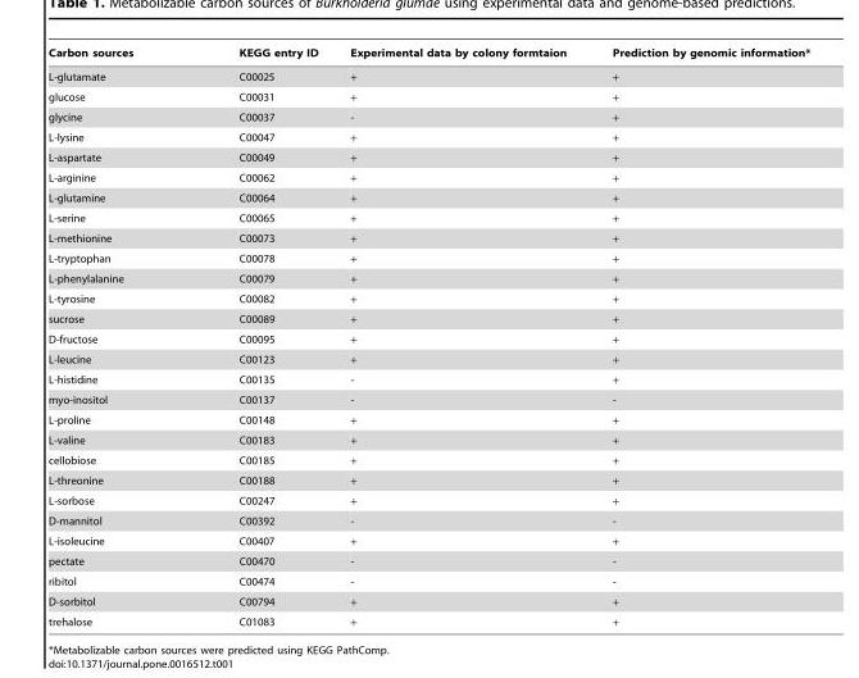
<table><thead><tr><td>Carbon sources</td><td>KEGG entry ID</td><td>Experimental data by colony formtaion</td><td>Prediction by genomic information*</td></tr></thead><tbody><tr><td>L-glutamate</td><td>C00025</td><td>+</td><td>+</td></tr><tr><td>glucose</td><td>C00031</td><td>+</td><td>+</td></tr><tr><td>glycine</td><td>C00037</td><td>-</td><td>+</td></tr><tr><td>L-lysine</td><td>C00047</td><td>+</td><td>+</td></tr><tr><td>L-aspartate</td><td>C00049</td><td>+</td><td>+</td></tr><tr><td>L-arginine</td><td>C00062</td><td>+</td><td>+</td></tr><tr><td>L-glutamine</td><td>C00064</td><td>+</td><td>+</td></tr><tr><td>L-serine</td><td>C00065</td><td>+</td><td>+</td></tr><tr><td>L-methionine</td><td>C00073</td><td>+</td><td>+</td></tr><tr><td>L-tryptophan</td><td>C00078</td><td>+</td><td>+</td></tr><tr><td>L-phenylalanine</td><td>C00079</td><td>+</td><td>+</td></tr><tr><td>L-tyrosine</td><td>C00082</td><td>+</td><td>+</td></tr><tr><td>sucrose</td><td>C00089</td><td>+</td><td>+</td></tr><tr><td>D-fructose</td><td>C00095</td><td>+</td><td>+</td></tr><tr><td>L-leucine</td><td>C00123</td><td>+</td><td>+</td></tr><tr><td>L-histidine</td><td>C00135</td><td>-</td><td>+</td></tr><tr><td>myo-inositol</td><td>C00137</td><td>-</td><td>-</td></tr><tr><td>L-proline</td><td>C00148</td><td>+</td><td>+</td></tr><tr><td>L-valine</td><td>C00183</td><td>+</td><td>+</td></tr><tr><td>cellobiose</td><td>C00185</td><td>+</td><td>+</td></tr><tr><td>L-threonine</td><td>C00188</td><td>+</td><td>+</td></tr><tr><td>L-sorbose</td><td>C00247</td><td>+</td><td>+</td></tr><tr><td>D-mannitol</td><td>C00392</td><td>-</td><td>-</td></tr><tr><td>L-isoleucine</td><td>C00407</td><td>+</td><td>+</td></tr><tr><td>pectate</td><td>C00470</td><td>-</td><td>-</td></tr><tr><td>ribitol</td><td>C00474</td><td>-</td><td>-</td></tr><tr><td>D-sorbitol</td><td>C00794</td><td>+</td><td>+</td></tr><tr><td>trehalose</td><td>C01083</td><td>+</td><td>+</td></tr></tbody></table>